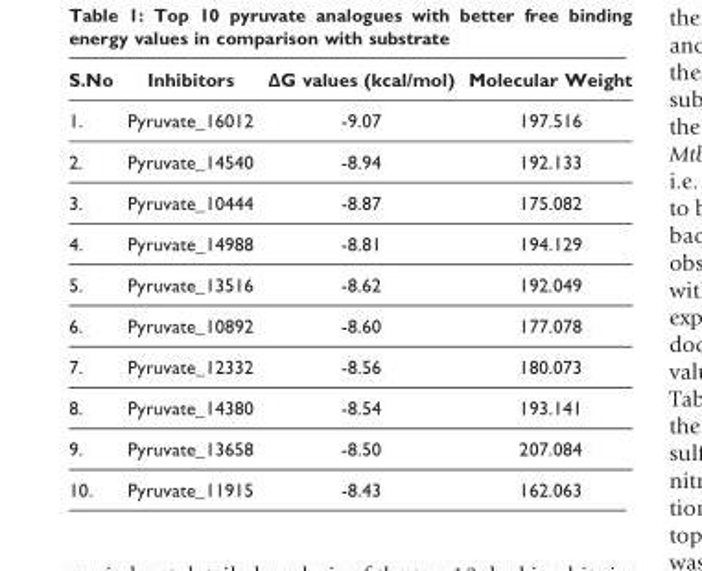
<table><thead><tr><td>S.No</td><td>Inhibitors</td><td>ΔG values (kcal/mol)</td><td>Molecular Weight</td></tr></thead><tbody><tr><td>1.</td><td>Pyruvate_16012</td><td>-9.07</td><td>197.516</td></tr><tr><td>2.</td><td>Pyruvate_14540</td><td>-8.94</td><td>192.133</td></tr><tr><td>3.</td><td>Pyruvate_10444</td><td>-8.87</td><td>175.082</td></tr><tr><td>4.</td><td>Pyruvate_14988</td><td>-8.81</td><td>194.129</td></tr><tr><td>5.</td><td>Pyruvate_13516</td><td>-8.62</td><td>192.049</td></tr><tr><td>6.</td><td>Pyruvate_10892</td><td>-8.60</td><td>177.078</td></tr><tr><td>7.</td><td>Pyruvate_12332</td><td>-8.56</td><td>180.073</td></tr><tr><td>8.</td><td>Pyruvate_14380</td><td>-8.54</td><td>193.141</td></tr><tr><td>9.</td><td>Pyruvate_13658</td><td>-8.50</td><td>207.084</td></tr><tr><td>10.</td><td>Pyruvate_11915</td><td>-8.43</td><td>162.063</td></tr></tbody></table>